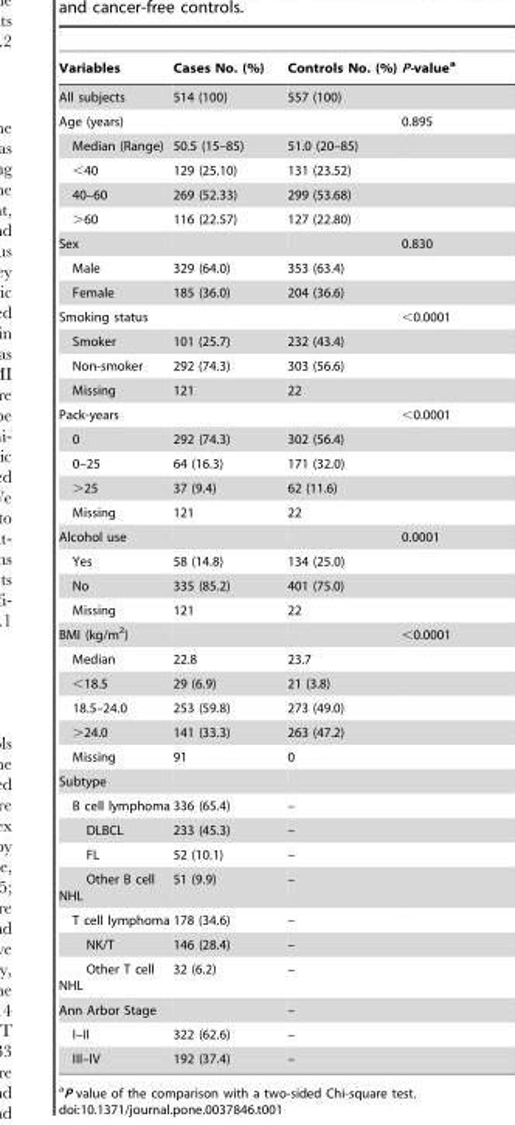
<table><thead><tr><td>Variables</td><td>Cases No. (%)</td><td>Controls No. (%)</td><td>P-value<sup>a</sup></td></tr></thead><tbody><tr><td>All subjects</td><td>514 (100)</td><td>557 (100)</td><td></td></tr><tr><td>Age (years)</td><td></td><td></td><td>0.895</td></tr><tr><td>Median (Range)</td><td>50.5 (15–85)</td><td>51.0 (20–85)</td><td></td></tr><tr><td>&lt;40</td><td>129 (25.10)</td><td>131 (23.52)</td><td></td></tr><tr><td>40–60</td><td>269 (52.33)</td><td>299 (53.68)</td><td></td></tr><tr><td>&gt;60</td><td>116 (22.57)</td><td>127 (22.80)</td><td></td></tr><tr><td>Sex</td><td></td><td></td><td>0.830</td></tr><tr><td>Male</td><td>329 (64.0)</td><td>353 (63.4)</td><td></td></tr><tr><td>Female</td><td>185 (36.0)</td><td>204 (36.6)</td><td></td></tr><tr><td>Smoking status</td><td></td><td></td><td>&lt;0.0001</td></tr><tr><td>Smoker</td><td>101 (25.7)</td><td>232 (43.4)</td><td></td></tr><tr><td>Non-smoker</td><td>292 (74.3)</td><td>303 (56.6)</td><td></td></tr><tr><td>Missing</td><td>121</td><td>22</td><td></td></tr><tr><td>Pack-years</td><td></td><td></td><td>&lt;0.0001</td></tr><tr><td>0</td><td>292 (74.3)</td><td>302 (56.4)</td><td></td></tr><tr><td>0–25</td><td>64 (16.3)</td><td>171 (32.0)</td><td></td></tr><tr><td>&gt;25</td><td>37 (9.4)</td><td>62 (11.6)</td><td></td></tr><tr><td>Missing</td><td>121</td><td>22</td><td></td></tr><tr><td>Alcohol use</td><td></td><td></td><td>0.0001</td></tr><tr><td>Yes</td><td>58 (14.8)</td><td>134 (25.0)</td><td></td></tr><tr><td>No</td><td>335 (85.2)</td><td>401 (75.0)</td><td></td></tr><tr><td>Missing</td><td>121</td><td>22</td><td></td></tr><tr><td>BMI (kg/m<sup>2</sup>)</td><td></td><td></td><td>&lt;0.0001</td></tr><tr><td>Median</td><td>22.8</td><td>23.7</td><td></td></tr><tr><td>&lt;18.5</td><td>29 (6.9)</td><td>21 (3.8)</td><td></td></tr><tr><td>18.5–24.0</td><td>253 (59.8)</td><td>273 (49.0)</td><td></td></tr><tr><td>&gt;24.0</td><td>141 (33.3)</td><td>263 (47.2)</td><td></td></tr><tr><td>Missing</td><td>91</td><td>0</td><td></td></tr><tr><td colspan="4">Subtype</td></tr><tr><td>B cell lymphoma</td><td>336 (65.4)</td><td>–</td><td></td></tr><tr><td>DLBCL</td><td>233 (45.3)</td><td>–</td><td></td></tr><tr><td>FL</td><td>52 (10.1)</td><td>–</td><td></td></tr><tr><td>Other B cell NHL</td><td>51 (9.9)</td><td>–</td><td></td></tr><tr><td>T cell lymphoma</td><td>178 (34.6)</td><td>–</td><td></td></tr><tr><td>NK/T</td><td>146 (28.4)</td><td>–</td><td></td></tr><tr><td>Other T cell NHL</td><td>32 (6.2)</td><td>–</td><td></td></tr><tr><td>Ann Arbor Stage</td><td></td><td>–</td><td></td></tr><tr><td>I–II</td><td>322 (62.6)</td><td>–</td><td></td></tr><tr><td>III–IV</td><td>192 (37.4)</td><td>–</td><td></td></tr></tbody></table>